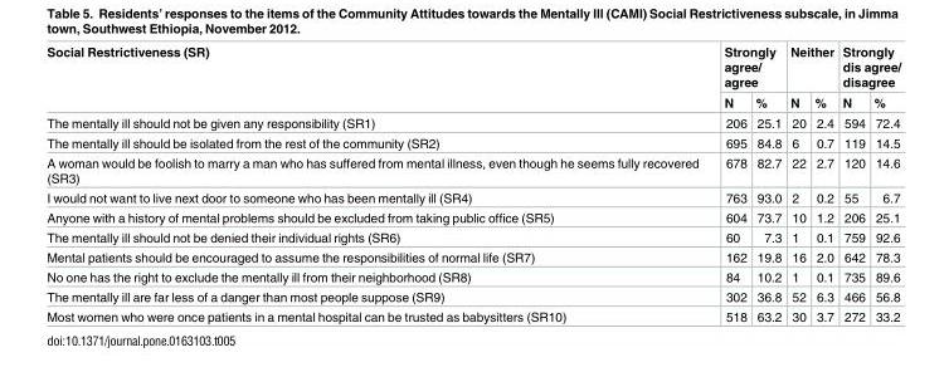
<table><thead><tr><td rowspan="2">Social Restrictiveness (SR)</td><td colspan="2">Strongly agree/ agree</td><td colspan="2">Neither</td><td colspan="2">Strongly dis agree/ disagree</td></tr><tr><td>N</td><td>%</td><td>N</td><td>%</td><td>N</td><td>%</td></tr></thead><tbody><tr><td>The mentally ill should not be given any responsibility (SR1)</td><td>206</td><td>25.1</td><td>20</td><td>2.4</td><td>594</td><td>72.4</td></tr><tr><td>The mentally ill should be isolated from the rest of the community (SR2)</td><td>695</td><td>84.8</td><td>6</td><td>0.7</td><td>119</td><td>14.5</td></tr><tr><td>A woman would be foolish to marry a man who has suffered from mental illness, even though he seems fully recovered (SR3)</td><td>678</td><td>82.7</td><td>22</td><td>2.7</td><td>120</td><td>14.6</td></tr><tr><td>I would not want to live next door to someone who has been mentally ill (SR4)</td><td>763</td><td>93.0</td><td>2</td><td>0.2</td><td>55</td><td>6.7</td></tr><tr><td>Anyone with a history of mental problems should be excluded from taking public office (SR5)</td><td>604</td><td>73.7</td><td>10</td><td>1.2</td><td>206</td><td>25.1</td></tr><tr><td>The mentally ill should not be denied their individual rights (SR6)</td><td>60</td><td>7.3</td><td>1</td><td>0.1</td><td>759</td><td>92.6</td></tr><tr><td>Mental patients should be encouraged to assume the responsibilities of normal life (SR7)</td><td>162</td><td>19.8</td><td>16</td><td>2.0</td><td>642</td><td>78.3</td></tr><tr><td>No one has the right to exclude the mentally ill from their neighborhood (SR8)</td><td>84</td><td>10.2</td><td>1</td><td>0.1</td><td>735</td><td>89.6</td></tr><tr><td>The mentally ill are far less of a danger than most people suppose (SR9)</td><td>302</td><td>36.8</td><td>52</td><td>6.3</td><td>466</td><td>56.8</td></tr><tr><td>Most women who were once patients in a mental hospital can be trusted as babysitters (SR10)</td><td>518</td><td>63.2</td><td>30</td><td>3.7</td><td>272</td><td>33.2</td></tr></tbody></table>